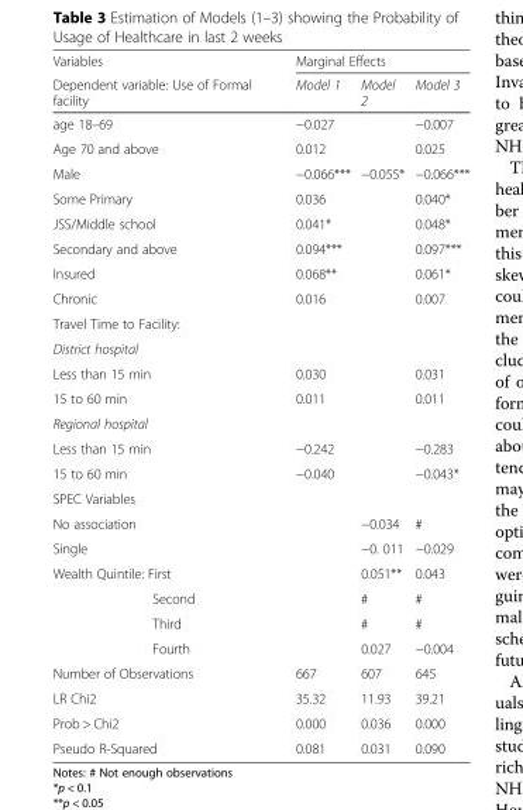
<table><thead><tr><td rowspan="2">Variables Dependent variable: Use of Formal facility</td><td colspan="3">Marginal Effects</td></tr><tr><td>Model 1</td><td>Model 2</td><td>Model 3</td></tr></thead><tbody><tr><td>age 18–69</td><td>−0.027</td><td></td><td>−0.007</td></tr><tr><td>Age 70 and above</td><td>0.012</td><td></td><td>0.025</td></tr><tr><td>Male</td><td>−0.066***</td><td>−0.055*</td><td>−0.066***</td></tr><tr><td>Some Primary</td><td>0.036</td><td></td><td>0.040*</td></tr><tr><td>JSS/Middle school</td><td>0.041*</td><td></td><td>0.048*</td></tr><tr><td>Secondary and above</td><td>0.094***</td><td></td><td>0.097***</td></tr><tr><td>Insured</td><td>0.068**</td><td></td><td>0.061*</td></tr><tr><td>Chronic</td><td>0.016</td><td></td><td>0.007</td></tr><tr><td colspan="4">Travel Time to Facility:</td></tr><tr><td colspan="4">District hospital</td></tr><tr><td>Less than 15 min</td><td>0.030</td><td></td><td>0.031</td></tr><tr><td>15 to 60 min</td><td>0.011</td><td></td><td>0.011</td></tr><tr><td colspan="4">Regional hospital</td></tr><tr><td>Less than 15 min</td><td>−0.242</td><td></td><td>−0.283</td></tr><tr><td>15 to 60 min</td><td>−0.040</td><td></td><td>−0.043*</td></tr><tr><td colspan="4">SPEC Variables</td></tr><tr><td>No association</td><td></td><td>−0.034</td><td>#</td></tr><tr><td>Single</td><td></td><td>−0. 011</td><td>−0.029</td></tr><tr><td>Wealth Quintile: First</td><td></td><td>0.051**</td><td>0.043</td></tr><tr><td>Second</td><td></td><td>#</td><td>#</td></tr><tr><td>Third</td><td></td><td>#</td><td>#</td></tr><tr><td>Fourth</td><td></td><td>0.027</td><td>−0.004</td></tr><tr><td>Number of Observations</td><td>667</td><td>607</td><td>645</td></tr><tr><td>LR Chi2</td><td>35.32</td><td>11.93</td><td>39.21</td></tr><tr><td>Prob &gt; Chi2</td><td>0.000</td><td>0.036</td><td>0.000</td></tr><tr><td>Pseudo R-Squared</td><td>0.081</td><td>0.031</td><td>0.090</td></tr></tbody></table>